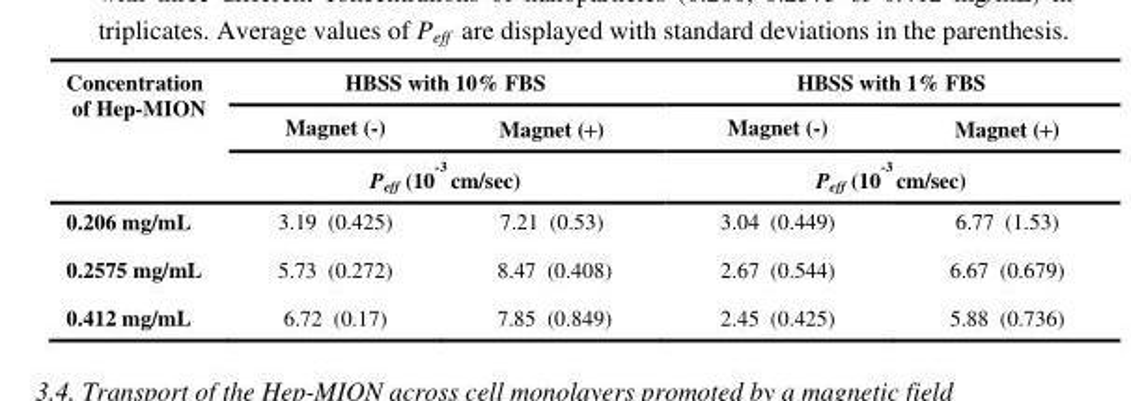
<table><thead><tr><td rowspan="3">Concentration of Hep-MION</td><td colspan="2">HBSS with 10% FBS</td><td colspan="2">HBSS with 1% FBS</td></tr><tr><td>Magnet (-)</td><td>Magnet (+)</td><td>Magnet (-)</td><td>Magnet (+)</td></tr><tr><td colspan="2">P<sub>eff</sub> (10 <sup>-3</sup> cm/sec)</td><td colspan="2">P<sub>eff</sub> (10 <sup>-3</sup> cm/sec)</td></tr></thead><tbody><tr><td>0.206 mg/mL</td><td>3.19 (0.425)</td><td>7.21 (0.53)</td><td>3.04 (0.449)</td><td>6.77 (1.53)</td></tr><tr><td>0.2575 mg/mL</td><td>5.73 (0.272)</td><td>8.47 (0.408)</td><td>2.67 (0.544)</td><td>6.67 (0.679)</td></tr><tr><td>0.412 mg/mL</td><td>6.72 (0.17)</td><td>7.85 (0.849)</td><td>2.45 (0.425)</td><td>5.88 (0.736)</td></tr></tbody></table>